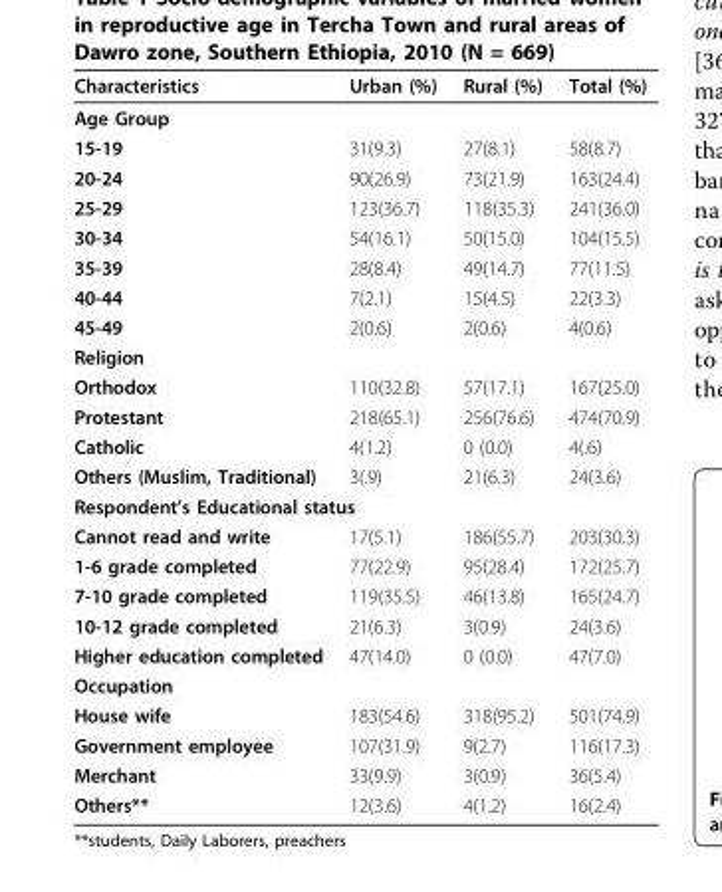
<table><thead><tr><td>Characteristics</td><td>Urban (%)</td><td>Rural (%)</td><td>Total (%)</td></tr></thead><tbody><tr><td colspan="4">Age Group</td></tr><tr><td>15-19</td><td>31(9.3)</td><td>27(8.1)</td><td>58(8.7)</td></tr><tr><td>20-24</td><td>90(26.9)</td><td>73(21.9)</td><td>163(24.4)</td></tr><tr><td>25-29</td><td>123(36.7)</td><td>118(35.3)</td><td>241(36.0)</td></tr><tr><td>30-34</td><td>54(16.1)</td><td>50(15.0)</td><td>104(15.5)</td></tr><tr><td>35-39</td><td>28(8.4)</td><td>49(14.7)</td><td>77(11.5)</td></tr><tr><td>40-44</td><td>7(2.1)</td><td>15(4.5)</td><td>22(3.3)</td></tr><tr><td>45-49</td><td>2(0.6)</td><td>2(0.6)</td><td>4(0.6)</td></tr><tr><td colspan="4">Religion</td></tr><tr><td>Orthodox</td><td>110(32.8)</td><td>57(17.1)</td><td>167(25.0)</td></tr><tr><td>Protestant</td><td>218(65.1)</td><td>256(76.6)</td><td>474(70.9)</td></tr><tr><td>Catholic</td><td>4(1.2)</td><td>0 (0.0)</td><td>4(.6)</td></tr><tr><td>Others (Muslim, Traditional)</td><td>3(.9)</td><td>21(6.3)</td><td>24(3.6)</td></tr><tr><td colspan="4">Respondent’s Educational status</td></tr><tr><td>Cannot read and write</td><td>17(5.1)</td><td>186(55.7)</td><td>203(30.3)</td></tr><tr><td>1-6 grade completed</td><td>77(22.9)</td><td>95(28.4)</td><td>172(25.7)</td></tr><tr><td>7-10 grade completed</td><td>119(35.5)</td><td>46(13.8)</td><td>165(24.7)</td></tr><tr><td>10-12 grade completed</td><td>21(6.3)</td><td>3(0.9)</td><td>24(3.6)</td></tr><tr><td>Higher education completed</td><td>47(14.0)</td><td>0 (0.0)</td><td>47(7.0)</td></tr><tr><td colspan="4">Occupation</td></tr><tr><td>House wife</td><td>183(54.6)</td><td>318(95.2)</td><td>501(74.9)</td></tr><tr><td>Government employee</td><td>107(31.9)</td><td>9(2.7)</td><td>116(17.3)</td></tr><tr><td>Merchant</td><td>33(9.9)</td><td>3(0.9)</td><td>36(5.4)</td></tr><tr><td>Others**</td><td>12(3.6)</td><td>4(1.2)</td><td>16(2.4)</td></tr></tbody></table>